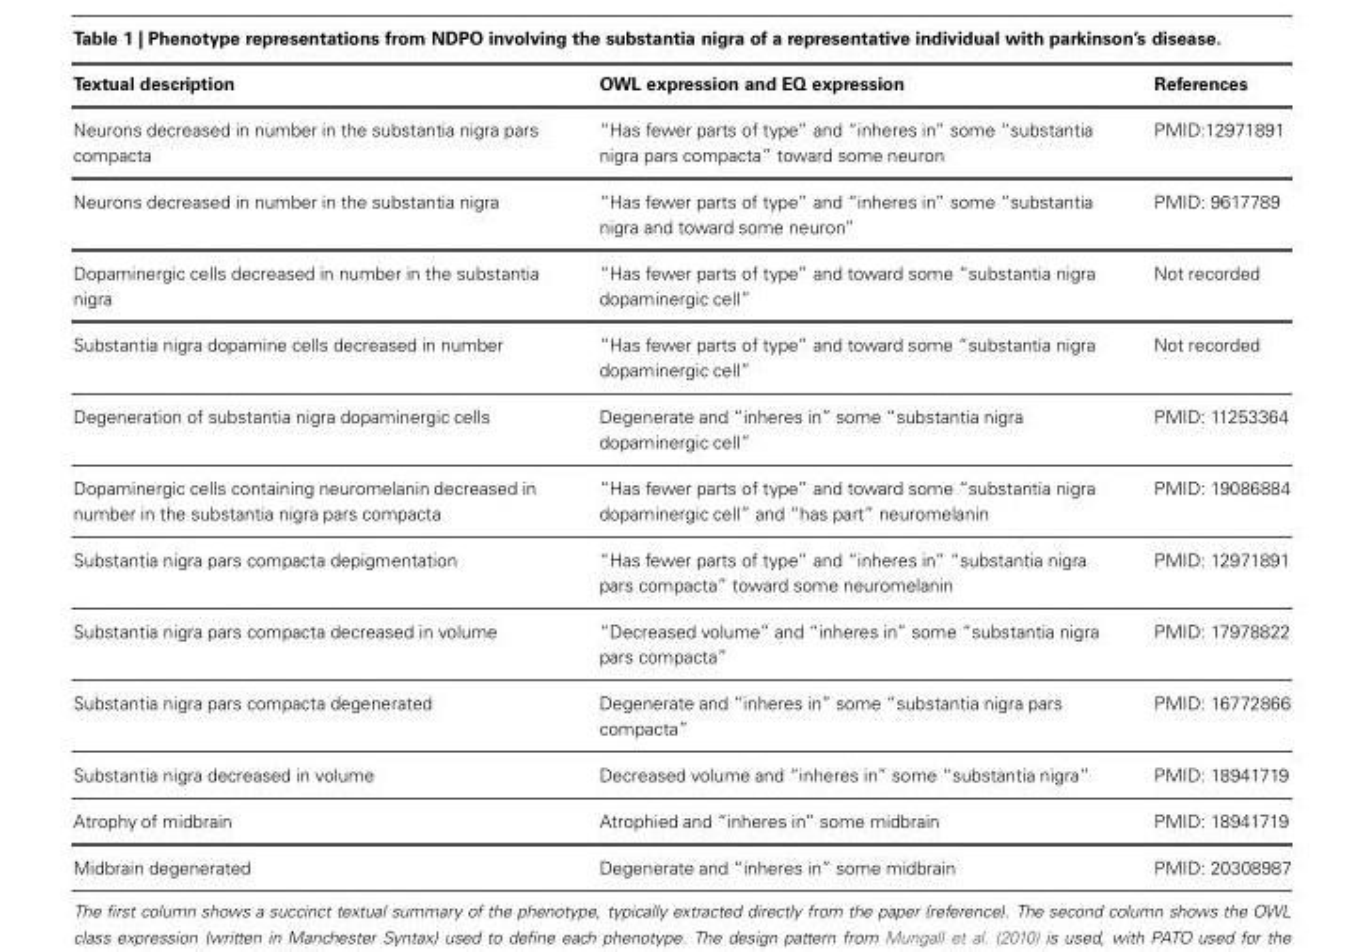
<table><thead><tr><td>Textual description</td><td>OWL expression and EQ expression</td><td>References</td></tr></thead><tbody><tr><td>Neurons decreased in number in the substantia nigra pars compacta</td><td>“Has fewer parts of type” and “inheres in” some “substantia nigra pars compacta” toward some neuron</td><td>PMID:12971891</td></tr><tr><td>Neurons decreased in number in the substantia nigra</td><td>“Has fewer parts of type” and “inheres in” some “substantia nigra and toward some neuron”</td><td>PMID: 9617789</td></tr><tr><td>Dopaminergic cells decreased in number in the substantia nigra</td><td>“Has fewer parts of type” and toward some “substantia nigra dopaminergic cell”</td><td>Not recorded</td></tr><tr><td>Substantia nigra dopamine cells decreased in number</td><td>“Has fewer parts of type” and toward some “substantia nigra dopaminergic cell”</td><td>Not recorded</td></tr><tr><td>Degeneration of substantia nigra dopaminergic cells</td><td>Degenerate and “inheres in” some “substantia nigra dopaminergic cell”</td><td>PMID: 11253364</td></tr><tr><td>Dopaminergic cells containing neuromelanin decreased in number in the substantia nigra pars compacta</td><td>“Has fewer parts of type” and toward some “substantia nigra dopaminergic cell” and “has part” neuromelanin</td><td>PMID: 19086884</td></tr><tr><td>Substantia nigra pars compacta depigmentation</td><td>“Has fewer parts of type” and “inheres in” “substantia nigra pars compacta” toward some neuromelanin</td><td>PMID: 12971891</td></tr><tr><td>Substantia nigra pars compacta decreased in volume</td><td>“Decreased volume” and “inheres in” some “substantia nigra pars compacta”</td><td>PMID: 17978822</td></tr><tr><td>Substantia nigra pars compacta degenerated</td><td>Degenerate and “inheres in” some “substantia nigra pars compacta”</td><td>PMID: 16772866</td></tr><tr><td>Substantia nigra decreased in volume</td><td>Decreased volume and “inheres in” some “substantia nigra”</td><td>PMID: 18941719</td></tr><tr><td>Atrophy of midbrain</td><td>Atrophied and “inheres in” some midbrain</td><td>PMID: 18941719</td></tr><tr><td>Midbrain degenerated</td><td>Degenerate and “inheres in” some midbrain</td><td>PMID: 20308987</td></tr></tbody></table>